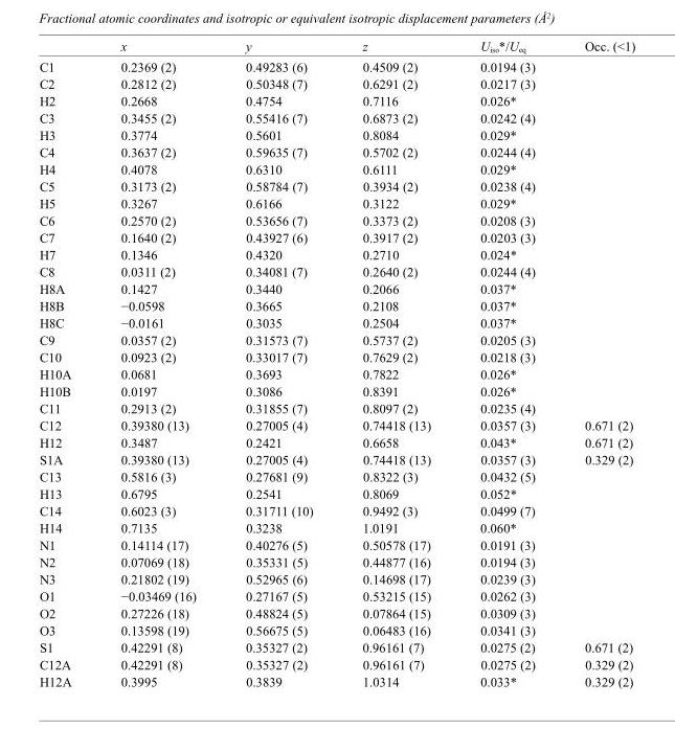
<table><thead><tr><td></td><td>x</td><td>y</td><td>z</td><td>U<sub>iso</sub>*/U<sub>eq</sub></td><td>Occ. (&lt;1)</td></tr></thead><tbody><tr><td>C1</td><td>0.2369 (2)</td><td>0.49283 (6)</td><td>0.4509 (2)</td><td>0.0194 (3)</td><td></td></tr><tr><td>C2</td><td>0.2812 (2)</td><td>0.50348 (7)</td><td>0.6291 (2)</td><td>0.0217 (3)</td><td></td></tr><tr><td>H2</td><td>0.2668</td><td>0.4754</td><td>0.7116</td><td>0.026*</td><td></td></tr><tr><td>C3</td><td>0.3455 (2)</td><td>0.55416 (7)</td><td>0.6873 (2)</td><td>0.0242 (4)</td><td></td></tr><tr><td>H3</td><td>0.3774</td><td>0.5601</td><td>0.8084</td><td>0.029*</td><td></td></tr><tr><td>C4</td><td>0.3637 (2)</td><td>0.59635 (7)</td><td>0.5702 (2)</td><td>0.0244 (4)</td><td></td></tr><tr><td>H4</td><td>0.4078</td><td>0.6310</td><td>0.6111</td><td>0.029*</td><td></td></tr><tr><td>C5</td><td>0.3173 (2)</td><td>0.58784 (7)</td><td>0.3934 (2)</td><td>0.0238 (4)</td><td></td></tr><tr><td>H5</td><td>0.3267</td><td>0.6166</td><td>0.3122</td><td>0.029*</td><td></td></tr><tr><td>C6</td><td>0.2570 (2)</td><td>0.53656 (7)</td><td>0.3373 (2)</td><td>0.0208 (3)</td><td></td></tr><tr><td>C7</td><td>0.1640 (2)</td><td>0.43927 (6)</td><td>0.3917 (2)</td><td>0.0203 (3)</td><td></td></tr><tr><td>H7</td><td>0.1346</td><td>0.4320</td><td>0.2710</td><td>0.024*</td><td></td></tr><tr><td>C8</td><td>0.0311 (2)</td><td>0.34081 (7)</td><td>0.2640 (2)</td><td>0.0244 (4)</td><td></td></tr><tr><td>H8A</td><td>0.1427</td><td>0.3440</td><td>0.2066</td><td>0.037*</td><td></td></tr><tr><td>H8B</td><td>−0.0598</td><td>0.3665</td><td>0.2108</td><td>0.037*</td><td></td></tr><tr><td>H8C</td><td>−0.0161</td><td>0.3035</td><td>0.2504</td><td>0.037*</td><td></td></tr><tr><td>C9</td><td>0.0357 (2)</td><td>0.31573 (7)</td><td>0.5737 (2)</td><td>0.0205 (3)</td><td></td></tr><tr><td>C10</td><td>0.0923 (2)</td><td>0.33017 (7)</td><td>0.7629 (2)</td><td>0.0218 (3)</td><td></td></tr><tr><td>H10A</td><td>0.0681</td><td>0.3693</td><td>0.7822</td><td>0.026*</td><td></td></tr><tr><td>H10B</td><td>0.0197</td><td>0.3086</td><td>0.8391</td><td>0.026*</td><td></td></tr><tr><td>C11</td><td>0.2913 (2)</td><td>0.31855 (7)</td><td>0.8097 (2)</td><td>0.0235 (4)</td><td></td></tr><tr><td>C12</td><td>0.39380 (13)</td><td>0.27005 (4)</td><td>0.74418 (13)</td><td>0.0357 (3)</td><td>0.671 (2)</td></tr><tr><td>H12</td><td>0.3487</td><td>0.2421</td><td>0.6658</td><td>0.043*</td><td>0.671 (2)</td></tr><tr><td>S1A</td><td>0.39380 (13)</td><td>0.27005 (4)</td><td>0.74418 (13)</td><td>0.0357 (3)</td><td>0.329 (2)</td></tr><tr><td>C13</td><td>0.5816 (3)</td><td>0.27681 (9)</td><td>0.8322 (3)</td><td>0.0432 (5)</td><td></td></tr><tr><td>H13</td><td>0.6795</td><td>0.2541</td><td>0.8069</td><td>0.052*</td><td></td></tr><tr><td>C14</td><td>0.6023 (3)</td><td>0.31711 (10)</td><td>0.9492 (3)</td><td>0.0499 (7)</td><td></td></tr><tr><td>H14</td><td>0.7135</td><td>0.3238</td><td>1.0191</td><td>0.060*</td><td></td></tr><tr><td>N1</td><td>0.14114 (17)</td><td>0.40276 (5)</td><td>0.50578 (17)</td><td>0.0191 (3)</td><td></td></tr><tr><td>N2</td><td>0.07069 (18)</td><td>0.35331 (5)</td><td>0.44877 (16)</td><td>0.0194 (3)</td><td></td></tr><tr><td>N3</td><td>0.21802 (19)</td><td>0.52965 (6)</td><td>0.14698 (17)</td><td>0.0239 (3)</td><td></td></tr><tr><td>O1</td><td>−0.03469 (16)</td><td>0.27167 (5)</td><td>0.53215 (15)</td><td>0.0262 (3)</td><td></td></tr><tr><td>O2</td><td>0.27226 (18)</td><td>0.48824 (5)</td><td>0.07864 (15)</td><td>0.0309 (3)</td><td></td></tr><tr><td>O3</td><td>0.13598 (19)</td><td>0.56675 (5)</td><td>0.06483 (16)</td><td>0.0341 (3)</td><td></td></tr><tr><td>S1</td><td>0.42291 (8)</td><td>0.35327 (2)</td><td>0.96161 (7)</td><td>0.0275 (2)</td><td>0.671 (2)</td></tr><tr><td>C12A</td><td>0.42291 (8)</td><td>0.35327 (2)</td><td>0.96161 (7)</td><td>0.0275 (2)</td><td>0.329 (2)</td></tr><tr><td>H12A</td><td>0.3995</td><td>0.3839</td><td>1.0314</td><td>0.033*</td><td>0.329 (2)</td></tr></tbody></table>